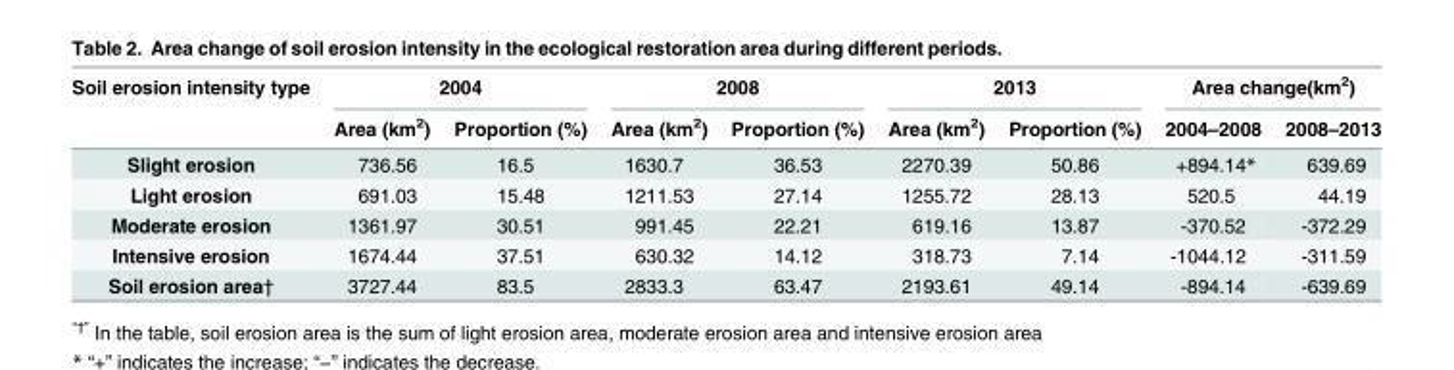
<table><thead><tr><td rowspan="2">Soil erosion intensity type</td><td colspan="2">2004</td><td colspan="2">2008</td><td colspan="2">2013</td><td colspan="2">Area change(km<sup>2</sup>)</td></tr><tr><td>Area (km<sup>2</sup>)</td><td>Proportion (%)</td><td>Area (km<sup>2</sup>)</td><td>Proportion (%)</td><td>Area (km<sup>2</sup>)</td><td>Proportion (%)</td><td>2004–2008</td><td>2008–2013</td></tr></thead><tbody><tr><td>Slight erosion</td><td>736.56</td><td>16.5</td><td>1630.7</td><td>36.53</td><td>2270.39</td><td>50.86</td><td>+894.14*</td><td>639.69</td></tr><tr><td>Light erosion</td><td>691.03</td><td>15.48</td><td>1211.53</td><td>27.14</td><td>1255.72</td><td>28.13</td><td>520.5</td><td>44.19</td></tr><tr><td>Moderate erosion</td><td>1361.97</td><td>30.51</td><td>991.45</td><td>22.21</td><td>619.16</td><td>13.87</td><td>-370.52</td><td>-372.29</td></tr><tr><td>Intensive erosion</td><td>1674.44</td><td>37.51</td><td>630.32</td><td>14.12</td><td>318.73</td><td>7.14</td><td>-1044.12</td><td>-311.59</td></tr><tr><td>Soil erosion area†</td><td>3727.44</td><td>83.5</td><td>2833.3</td><td>63.47</td><td>2193.61</td><td>49.14</td><td>-894.14</td><td>-639.69</td></tr></tbody></table>